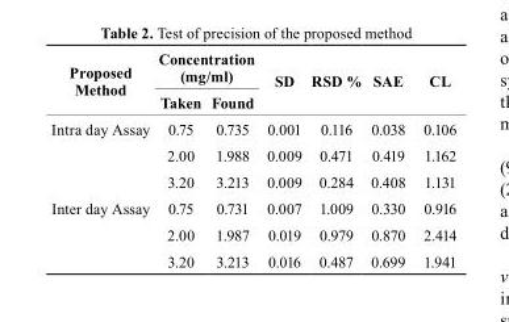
<table><thead><tr><td rowspan="2">Proposed Method</td><td colspan="2">concentration (mg/ml)</td><td rowspan="2">sD</td><td rowspan="2">rsD %</td><td rowspan="2">sAE</td><td rowspan="2">cL</td></tr><tr><td>Taken</td><td>Found</td></tr></thead><tbody><tr><td rowspan="3">Intra day Assay</td><td>0.75</td><td>0.735</td><td>0.001</td><td>0.116</td><td>0.038</td><td>0.106</td></tr><tr><td>2.00</td><td>1.988</td><td>0.009</td><td>0.471</td><td>0.419</td><td>1.162</td></tr><tr><td>3.20</td><td>3.213</td><td>0.009</td><td>0.284</td><td>0.408</td><td>1.131</td></tr><tr><td rowspan="3">Inter day Assay</td><td>0.75</td><td>0.731</td><td>0.007</td><td>1.009</td><td>0.330</td><td>0.916</td></tr><tr><td>2.00</td><td>1.987</td><td>0.019</td><td>0.979</td><td>0.870</td><td>2.414</td></tr><tr><td>3.20</td><td>3.213</td><td>0.016</td><td>0.487</td><td>0.699</td><td>1.941</td></tr></tbody></table>